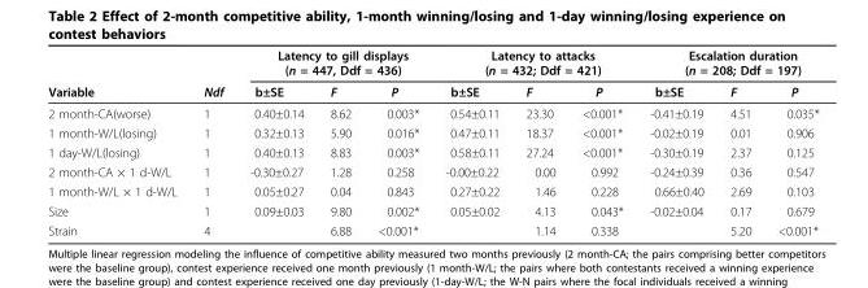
<table><thead><tr><td rowspan="2">Variable</td><td rowspan="2">Ndf</td><td colspan="3">Latency to gill displays (n = 447, Ddf = 436)</td><td colspan="3">Latency to attacks (n = 432; Ddf = 421)</td><td colspan="3">Escalation duration (n = 208; Ddf = 197)</td></tr><tr><td>b±SE</td><td>F</td><td>P</td><td>b±SE</td><td>F</td><td>P</td><td>b±SE</td><td>F</td><td>P</td></tr></thead><tbody><tr><td>2 month-CA(worse)</td><td>1</td><td>0.40±0.14</td><td>8.62</td><td>0.003*</td><td>0.54±0.11</td><td>23.30</td><td>&lt;0.001*</td><td>-0.41±0.19</td><td>4.51</td><td>0.035*</td></tr><tr><td>1 month-W/L(losing)</td><td>1</td><td>0.32±0.13</td><td>5.90</td><td>0.016*</td><td>0.47±0.11</td><td>18.37</td><td>&lt;0.001*</td><td>-0.02±0.19</td><td>0.01</td><td>0.906</td></tr><tr><td>1 day-W/L(losing)</td><td>1</td><td>0.40±0.13</td><td>8.83</td><td>0.003*</td><td>0.58±0.11</td><td>27.24</td><td>&lt;0.001*</td><td>-0.30±0.19</td><td>2.37</td><td>0.125</td></tr><tr><td>2 month-CA × 1 d-W/L</td><td>1</td><td>-0.30±0.27</td><td>1.28</td><td>0.258</td><td>-0.00±0.22</td><td>0.00</td><td>0.992</td><td>-0.24±0.39</td><td>0.36</td><td>0.547</td></tr><tr><td>1 month-W/L × 1 d-W/L</td><td>1</td><td>0.05±0.27</td><td>0.04</td><td>0.843</td><td>0.27±0.22</td><td>1.46</td><td>0.228</td><td>0.66±0.40</td><td>2.69</td><td>0.103</td></tr><tr><td>Size</td><td>1</td><td>0.09±0.03</td><td>9.80</td><td>0.002*</td><td>0.05±0.02</td><td>4.13</td><td>0.043*</td><td>-0.02±0.04</td><td>0.17</td><td>0.679</td></tr><tr><td>Strain</td><td>4</td><td></td><td>6.88</td><td>&lt;0.001*</td><td></td><td>1.14</td><td>0.338</td><td></td><td>5.20</td><td>&lt;0.001*</td></tr></tbody></table>